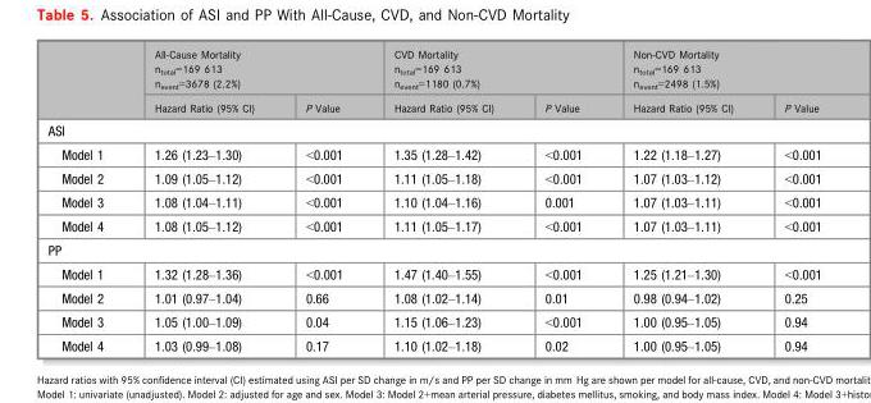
<table><thead><tr><td rowspan="2"></td><td colspan="2">All-Cause Mortality n<sub>total</sub>=169 613 n<sub>event</sub>=3678 (2.2%)</td><td colspan="2">CVD Mortality n<sub>total</sub>=169 613 n<sub>event</sub>=1180 (0.7%)</td><td colspan="2">Non-CVD Mortality n<sub>total</sub>=169 613 n<sub>event</sub>=2498 (1.5%)</td></tr><tr><td>Hazard Ratio (95% CI)</td><td>P Value</td><td>Hazard Ratio (95% CI)</td><td>P Value</td><td>Hazard Ratio (95% CI)</td><td>P Value</td></tr></thead><tbody><tr><td colspan="7">ASI</td></tr><tr><td>Model 1</td><td>1.26 (1.23–1.30)</td><td>&lt;0.001</td><td>1.35 (1.28–1.42)</td><td>&lt;0.001</td><td>1.22 (1.18–1.27)</td><td>&lt;0.001</td></tr><tr><td>Model 2</td><td>1.09 (1.05–1.12)</td><td>&lt;0.001</td><td>1.11 (1.05–1.18)</td><td>&lt;0.001</td><td>1.07 (1.03–1.12)</td><td>&lt;0.001</td></tr><tr><td>Model 3</td><td>1.08 (1.04–1.11)</td><td>&lt;0.001</td><td>1.10 (1.04–1.16)</td><td>0.001</td><td>1.07 (1.03–1.11)</td><td>&lt;0.001</td></tr><tr><td>Model 4</td><td>1.08 (1.05–1.12)</td><td>&lt;0.001</td><td>1.11 (1.05–1.17)</td><td>&lt;0.001</td><td>1.07 (1.03–1.11)</td><td>&lt;0.001</td></tr><tr><td colspan="7">PP</td></tr><tr><td>Model 1</td><td>1.32 (1.28–1.36)</td><td>&lt;0.001</td><td>1.47 (1.40–1.55)</td><td>&lt;0.001</td><td>1.25 (1.21–1.30)</td><td>&lt;0.001</td></tr><tr><td>Model 2</td><td>1.01 (0.97–1.04)</td><td>0.66</td><td>1.08 (1.02–1.14)</td><td>0.01</td><td>0.98 (0.94–1.02)</td><td>0.25</td></tr><tr><td>Model 3</td><td>1.05 (1.00–1.09)</td><td>0.04</td><td>1.15 (1.06–1.23)</td><td>&lt;0.001</td><td>1.00 (0.95–1.05)</td><td>0.94</td></tr><tr><td>Model 4</td><td>1.03 (0.99–1.08)</td><td>0.17</td><td>1.10 (1.02–1.18)</td><td>0.02</td><td>1.00 (0.95–1.05)</td><td>0.94</td></tr></tbody></table>